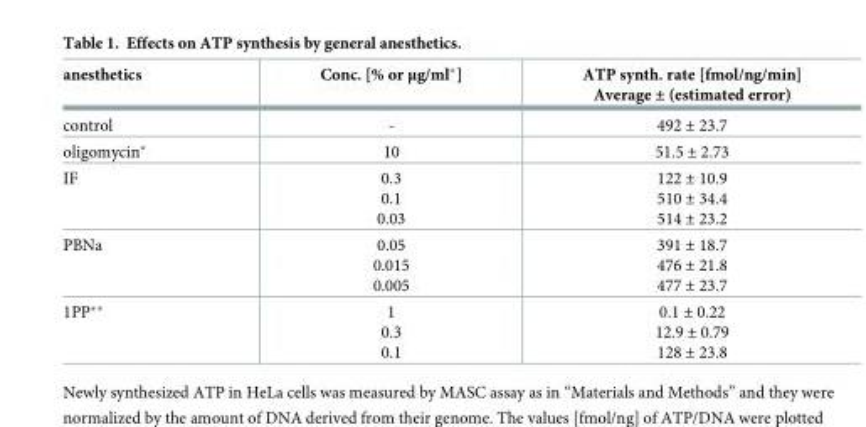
<table><thead><tr><td>anesthetics</td><td>Conc. [% or μg/ml*]</td><td>ATP synth. rate [fmol/ng/min] Average ± (estimated error)</td></tr></thead><tbody><tr><td>control</td><td>-</td><td>492 ± 23.7</td></tr><tr><td>oligomycin*</td><td>10</td><td>51.5 ± 2.73</td></tr><tr><td>IF</td><td>0.3 0.1 0.03</td><td>122 ± 10.9 510 ± 34.4 514 ± 23.2</td></tr><tr><td>PBNa</td><td>0.05 0.015 0.005</td><td>391 ± 18.7 476 ± 21.8 477 ± 23.7</td></tr><tr><td>1PP**</td><td>1 0.3 0.1</td><td>0.1 ± 0.22 12.9 ± 0.79 128 ± 23.8</td></tr></tbody></table>